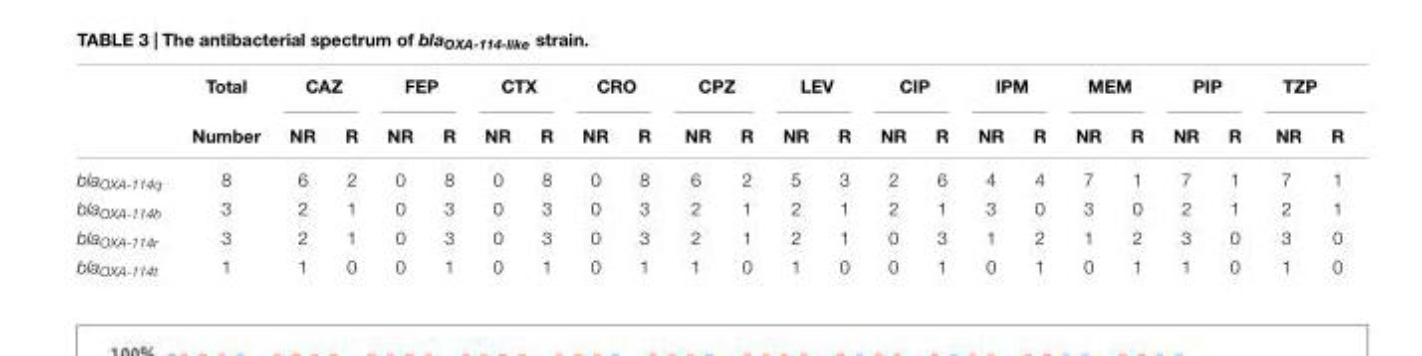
<table><thead><tr><td rowspan="2"></td><td rowspan="2">Total Number</td><td colspan="2">CAZ</td><td colspan="2">FEP</td><td colspan="2">CTX</td><td colspan="2">CRO</td><td colspan="2">CPZ</td><td colspan="2">LEV</td><td colspan="2">CIP</td><td colspan="2">IPM</td><td colspan="2">MEM</td><td colspan="2">PIP</td><td colspan="2">TZP</td></tr><tr><td>NR</td><td>R</td><td>NR</td><td>R</td><td>NR</td><td>R</td><td>NR</td><td>R</td><td>NR</td><td>R</td><td>NR</td><td>R</td><td>NR</td><td>R</td><td>NR</td><td>R</td><td>NR</td><td>R</td><td>NR</td><td>R</td><td>NR</td><td>R</td></tr></thead><tbody><tr><td>blaOXA-114q</td><td>8</td><td>6</td><td>2</td><td>0</td><td>8</td><td>0</td><td>8</td><td>0</td><td>8</td><td>6</td><td>2</td><td>5</td><td>3</td><td>2</td><td>6</td><td>4</td><td>4</td><td>7</td><td>1</td><td>7</td><td>1</td><td>7</td><td>1</td></tr><tr><td>blaOXA-114h</td><td>3</td><td>2</td><td>1</td><td>0</td><td>3</td><td>0</td><td>3</td><td>0</td><td>3</td><td>2</td><td>1</td><td>2</td><td>1</td><td>2</td><td>1</td><td>3</td><td>0</td><td>3</td><td>0</td><td>2</td><td>1</td><td>2</td><td>1</td></tr><tr><td>blaOXA-114r</td><td>3</td><td>2</td><td>1</td><td>0</td><td>3</td><td>0</td><td>3</td><td>0</td><td>3</td><td>2</td><td>1</td><td>2</td><td>1</td><td>0</td><td>3</td><td>1</td><td>2</td><td>1</td><td>2</td><td>3</td><td>0</td><td>3</td><td>0</td></tr><tr><td>blaOXA-114t</td><td>1</td><td>1</td><td>0</td><td>0</td><td>1</td><td>0</td><td>1</td><td>0</td><td>1</td><td>1</td><td>0</td><td>1</td><td>0</td><td>0</td><td>1</td><td>0</td><td>1</td><td>0</td><td>1</td><td>1</td><td>0</td><td>1</td><td>0</td></tr></tbody></table>